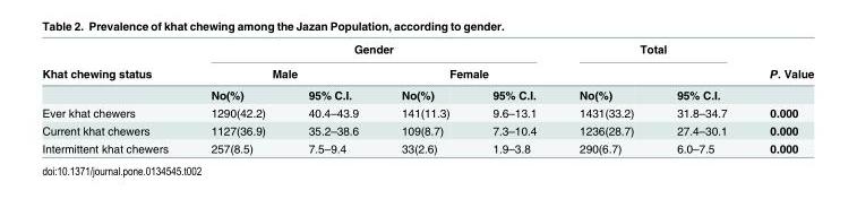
<table><thead><tr><td rowspan="3">Khat chewing status</td><td colspan="4">Gender</td><td colspan="2">Total</td><td rowspan="3">P. Value</td></tr><tr><td colspan="2">Male</td><td colspan="2">Female</td><td rowspan="2">No(%)</td><td rowspan="2">95% C.I.</td></tr><tr><td>No(%)</td><td>95% C.I.</td><td>No(%)</td><td>95% C.I.</td></tr></thead><tbody><tr><td>Ever khat chewers</td><td>1290(42.2)</td><td>40.4–43.9</td><td>141(11.3)</td><td>9.6–13.1</td><td>1431(33.2)</td><td>31.8–34.7</td><td>0.000</td></tr><tr><td>Current khat chewers</td><td>1127(36.9)</td><td>35.2–38.6</td><td>109(8.7)</td><td>7.3–10.4</td><td>1236(28.7)</td><td>27.4–30.1</td><td>0.000</td></tr><tr><td>Intermittent khat chewers</td><td>257(8.5)</td><td>7.5–9.4</td><td>33(2.6)</td><td>1.9–3.8</td><td>290(6.7)</td><td>6.0–7.5</td><td>0.000</td></tr></tbody></table>